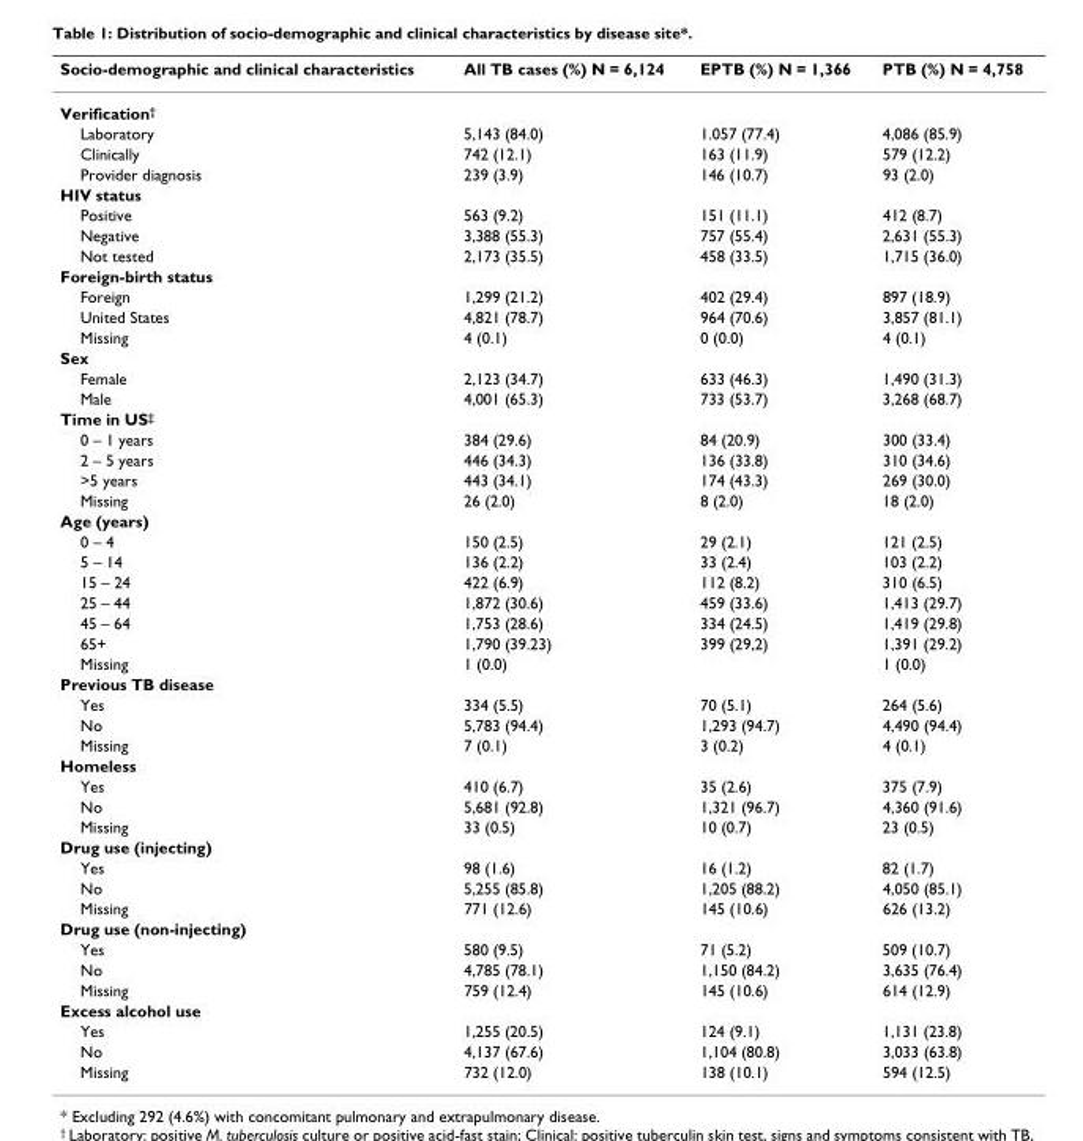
<table><thead><tr><td>Socio-demographic and clinical characteristics</td><td>All TB cases (%) N = 6,124</td><td>EPTB (%) N = 1,366</td><td>PTB (%) N = 4,758</td></tr></thead><tbody><tr><td colspan="4">Verification<sup>†</sup></td></tr><tr><td>Laboratory</td><td>5,143 (84.0)</td><td>1.057 (77.4)</td><td>4,086 (85.9)</td></tr><tr><td>Clinically</td><td>742 (12.1)</td><td>163 (11.9)</td><td>579 (12.2)</td></tr><tr><td>Provider diagnosis</td><td>239 (3.9)</td><td>146 (10.7)</td><td>93 (2.0)</td></tr><tr><td colspan="4">HIV status</td></tr><tr><td>Positive</td><td>563 (9.2)</td><td>151 (11.1)</td><td>412 (8.7)</td></tr><tr><td>Negative</td><td>3,388 (55.3)</td><td>757 (55.4)</td><td>2,631 (55.3)</td></tr><tr><td>Not tested</td><td>2,173 (35.5)</td><td>458 (33.5)</td><td>1,715 (36.0)</td></tr><tr><td colspan="4">Foreign-birth status</td></tr><tr><td>Foreign</td><td>1,299 (21.2)</td><td>402 (29.4)</td><td>897 (18.9)</td></tr><tr><td>United States</td><td>4,821 (78.7)</td><td>964 (70.6)</td><td>3,857 (81.1)</td></tr><tr><td>Missing</td><td>4 (0.1)</td><td>0 (0.0)</td><td>4 (0.1)</td></tr><tr><td colspan="4">Sex</td></tr><tr><td>Female</td><td>2,123 (34.7)</td><td>633 (46.3)</td><td>1,490 (31.3)</td></tr><tr><td>Male</td><td>4,001 (65.3)</td><td>733 (53.7)</td><td>3,268 (68.7)</td></tr><tr><td colspan="4">Time in US<sup>‡</sup></td></tr><tr><td>0 – 1 years</td><td>384 (29.6)</td><td>84 (20.9)</td><td>300 (33.4)</td></tr><tr><td>2 – 5 years</td><td>446 (34.3)</td><td>136 (33.8)</td><td>310 (34.6)</td></tr><tr><td>&gt;5 years</td><td>443 (34.1)</td><td>174 (43.3)</td><td>269 (30.0)</td></tr><tr><td>Missing</td><td>26 (2.0)</td><td>8 (2.0)</td><td>18 (2.0)</td></tr><tr><td colspan="4">Age (years)</td></tr><tr><td>0 – 4</td><td>150 (2.5)</td><td>29 (2.1)</td><td>121 (2.5)</td></tr><tr><td>5 – 14</td><td>136 (2.2)</td><td>33 (2.4)</td><td>103 (2.2)</td></tr><tr><td>15 – 24</td><td>422 (6.9)</td><td>112 (8.2)</td><td>310 (6.5)</td></tr><tr><td>25 – 44</td><td>1,872 (30.6)</td><td>459 (33.6)</td><td>1,413 (29.7)</td></tr><tr><td>45 – 64</td><td>1,753 (28.6)</td><td>334 (24.5)</td><td>1,419 (29.8)</td></tr><tr><td>65+</td><td>1,790 (39.23)</td><td>399 (29,2)</td><td>1,391 (29.2)</td></tr><tr><td>Missing</td><td>1 (0.0)</td><td></td><td>1 (0.0)</td></tr><tr><td colspan="4">Previous TB disease</td></tr><tr><td>Yes</td><td>334 (5.5)</td><td>70 (5.1)</td><td>264 (5.6)</td></tr><tr><td>No</td><td>5,783 (94.4)</td><td>1,293 (94.7)</td><td>4,490 (94.4)</td></tr><tr><td>Missing</td><td>7 (0.1)</td><td>3 (0.2)</td><td>4 (0.1)</td></tr><tr><td colspan="4">Homeless</td></tr><tr><td>Yes</td><td>410 (6.7)</td><td>35 (2.6)</td><td>375 (7.9)</td></tr><tr><td>No</td><td>5,681 (92.8)</td><td>1,321 (96.7)</td><td>4,360 (91.6)</td></tr><tr><td>Missing</td><td>33 (0.5)</td><td>10 (0.7)</td><td>23 (0.5)</td></tr><tr><td colspan="4">Drug use (injecting)</td></tr><tr><td>Yes</td><td>98 (1.6)</td><td>16 (1.2)</td><td>82 (1.7)</td></tr><tr><td>No</td><td>5,255 (85.8)</td><td>1,205 (88.2)</td><td>4,050 (85.1)</td></tr><tr><td>Missing</td><td>771 (12.6)</td><td>145 (10.6)</td><td>626 (13.2)</td></tr><tr><td colspan="4">Drug use (non-injecting)</td></tr><tr><td>Yes</td><td>580 (9.5)</td><td>71 (5.2)</td><td>509 (10.7)</td></tr><tr><td>No</td><td>4,785 (78.1)</td><td>1,150 (84.2)</td><td>3,635 (76.4)</td></tr><tr><td>Missing</td><td>759 (12.4)</td><td>145 (10.6)</td><td>614 (12.9)</td></tr><tr><td colspan="4">Excess alcohol use</td></tr><tr><td>Yes</td><td>1,255 (20.5)</td><td>124 (9.1)</td><td>1,131 (23.8)</td></tr><tr><td>No</td><td>4,137 (67.6)</td><td>1,104 (80.8)</td><td>3,033 (63.8)</td></tr><tr><td>Missing</td><td>732 (12.0)</td><td>138 (10.1)</td><td>594 (12.5)</td></tr></tbody></table>